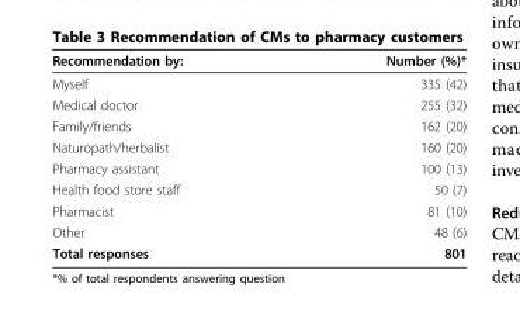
<table><thead><tr><td>Recommendation by:</td><td>Number (%)*</td></tr></thead><tbody><tr><td>Myself</td><td>335 (42)</td></tr><tr><td>Medical doctor</td><td>255 (32)</td></tr><tr><td>Family/friends</td><td>162 (20)</td></tr><tr><td>Naturopath/herbalist</td><td>160 (20)</td></tr><tr><td>Pharmacy assistant</td><td>100 (13)</td></tr><tr><td>Health food store staff</td><td>50 (7)</td></tr><tr><td>Pharmacist</td><td>81 (10)</td></tr><tr><td>Other</td><td>48 (6)</td></tr><tr><td>Total responses</td><td>801</td></tr></tbody></table>